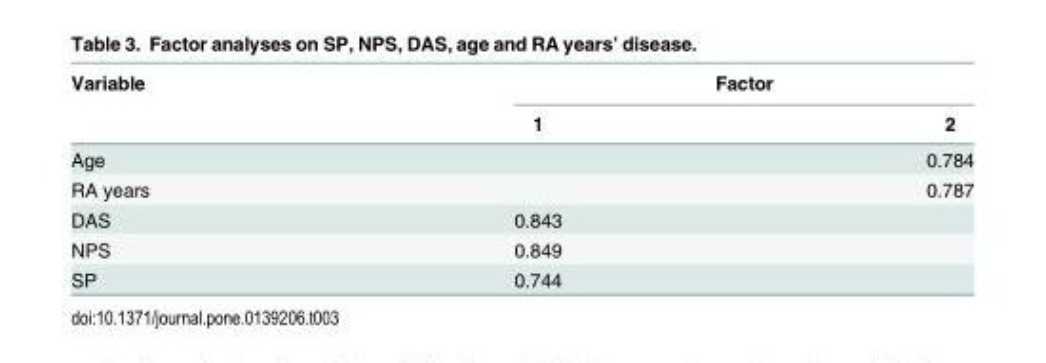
<table><thead><tr><td rowspan="2">Variable</td><td colspan="2">Factor</td></tr><tr><td>1</td><td>2</td></tr></thead><tbody><tr><td>Age</td><td></td><td>0.784</td></tr><tr><td>RA years</td><td></td><td>0.787</td></tr><tr><td>DAS</td><td>0.843</td><td></td></tr><tr><td>NPS</td><td>0.849</td><td></td></tr><tr><td>SP</td><td>0.744</td><td></td></tr></tbody></table>